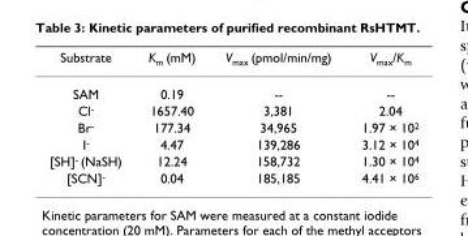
<table><thead><tr><td>Substrate</td><td>K<sub>m</sub> (mM)</td><td>V<sub>max</sub> (pmol/min/mg)</td><td>V<sub>max</sub>/K<sub>m</sub></td></tr></thead><tbody><tr><td>SAM</td><td>0.19</td><td>--</td><td>--</td></tr><tr><td>Cl<sup>-</sup></td><td>1657.40</td><td>3,381</td><td>2.04</td></tr><tr><td>Br<sup>-</sup></td><td>177.34</td><td>34,965</td><td>1.97 × 10<sup>2</sup></td></tr><tr><td>I<sup>-</sup></td><td>4.47</td><td>139,286</td><td>3.12 × 10<sup>4</sup></td></tr><tr><td>[SH]<sup>-</sup> (NaSH)</td><td>12.24</td><td>158,732</td><td>1.30 × 10<sup>4</sup></td></tr><tr><td>[SCN]<sup>-</sup></td><td>0.04</td><td>185,185</td><td>4.41 × 10<sup>6</sup></td></tr></tbody></table>